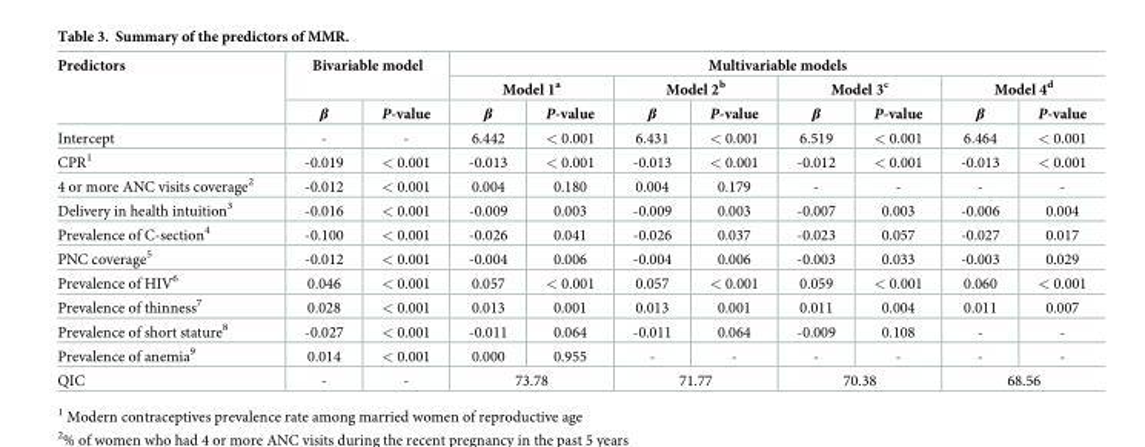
<table><thead><tr><td rowspan="3">Predictors</td><td rowspan="2" colspan="2">Bivariable model</td><td colspan="8">Multivariable models</td></tr><tr><td colspan="2">Model 1<sup>a</sup></td><td colspan="2">Model 2<sup>b</sup></td><td colspan="2">Model 3<sup>c</sup></td><td colspan="2">Model 4<sup>d</sup></td></tr><tr><td>β</td><td>P-value</td><td>β</td><td>P-value</td><td>β</td><td>P-value</td><td>β</td><td>P-value</td><td>β</td><td>P-value</td></tr></thead><tbody><tr><td>Intercept</td><td>-</td><td>-</td><td>6.442</td><td>&lt; 0.001</td><td>6.431</td><td>&lt; 0.001</td><td>6.519</td><td>&lt; 0.001</td><td>6.464</td><td>&lt; 0.001</td></tr><tr><td>CPR<sup>1</sup></td><td>-0.019</td><td>&lt; 0.001</td><td>-0.013</td><td>&lt; 0.001</td><td>-0.013</td><td>&lt; 0.001</td><td>-0.012</td><td>&lt; 0.001</td><td>-0.013</td><td>&lt; 0.001</td></tr><tr><td>4 or more ANC visits coverage<sup>2</sup></td><td>-0.012</td><td>&lt; 0.001</td><td>0.004</td><td>0.180</td><td>0.004</td><td>0.179</td><td>-</td><td>-</td><td>-</td><td>-</td></tr><tr><td>Delivery in health intuition<sup>3</sup></td><td>-0.016</td><td>&lt; 0.001</td><td>-0.009</td><td>0.003</td><td>-0.009</td><td>0.003</td><td>-0.007</td><td>0.003</td><td>-0.006</td><td>0.004</td></tr><tr><td>Prevalence of C-section<sup>4</sup></td><td>-0.100</td><td>&lt; 0.001</td><td>-0.026</td><td>0.041</td><td>-0.026</td><td>0.037</td><td>-0.023</td><td>0.057</td><td>-0.027</td><td>0.017</td></tr><tr><td>PNC coverage<sup>5</sup></td><td>-0.012</td><td>&lt; 0.001</td><td>-0.004</td><td>0.006</td><td>-0.004</td><td>0.006</td><td>-0.003</td><td>0.033</td><td>-0.003</td><td>0.029</td></tr><tr><td>Prevalence of HIV<sup>6</sup></td><td>0.046</td><td>&lt; 0.001</td><td>0.057</td><td>&lt; 0.001</td><td>0.057</td><td>&lt; 0.001</td><td>0.059</td><td>&lt; 0.001</td><td>0.060</td><td>&lt; 0.001</td></tr><tr><td>Prevalence of thinness<sup>7</sup></td><td>0.028</td><td>&lt; 0.001</td><td>0.013</td><td>0.001</td><td>0.013</td><td>0.001</td><td>0.011</td><td>0.004</td><td>0.011</td><td>0.007</td></tr><tr><td>Prevalence of short stature<sup>8</sup></td><td>-0.027</td><td>&lt; 0.001</td><td>-0.011</td><td>0.064</td><td>-0.011</td><td>0.064</td><td>-0.009</td><td>0.108</td><td>-</td><td>-</td></tr><tr><td>Prevalence of anemia<sup>9</sup></td><td>0.014</td><td>&lt; 0.001</td><td>0.000</td><td>0.955</td><td>-</td><td>-</td><td>-</td><td>-</td><td>-</td><td>-</td></tr><tr><td>QIC</td><td>-</td><td>-</td><td colspan="2">73.78</td><td colspan="2">71.77</td><td colspan="2">70.38</td><td colspan="2">68.56</td></tr></tbody></table>